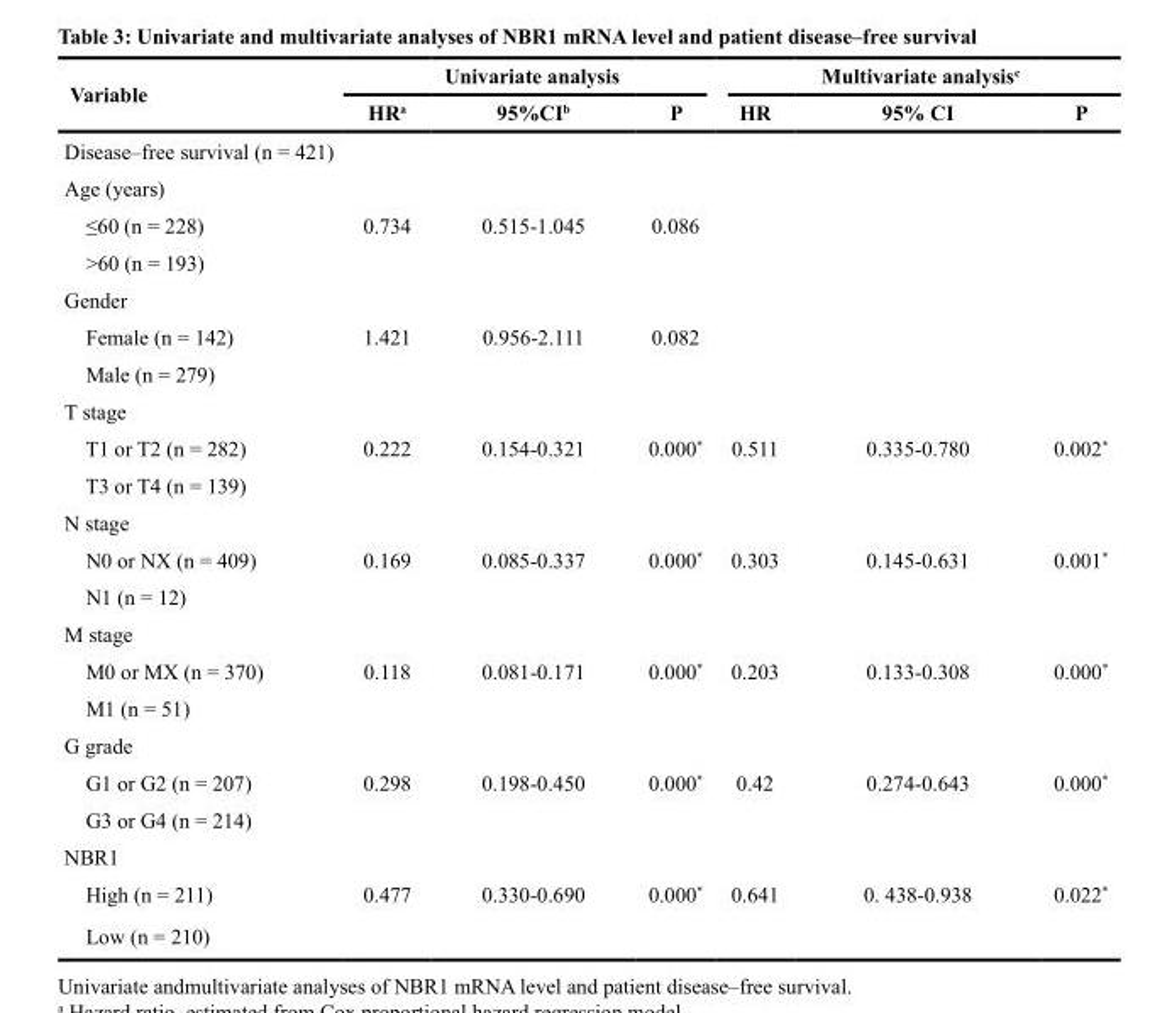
<table><thead><tr><td rowspan="2">Variable</td><td colspan="3">Univariate analysis</td><td colspan="3">Multivariate analysis<sup>c</sup></td></tr><tr><td>HR<sup>a</sup></td><td>95%CI<sup>b</sup></td><td>P</td><td>HR</td><td>95% CI</td><td>P</td></tr></thead><tbody><tr><td colspan="7">Disease–free survival (n = 421)</td></tr><tr><td colspan="7">Age (years)</td></tr><tr><td>≤60 (n = 228)</td><td>0.734</td><td>0.515-1.045</td><td>0.086</td><td></td><td></td><td></td></tr><tr><td colspan="7">&gt;60 (n = 193)</td></tr><tr><td colspan="7">Gender</td></tr><tr><td>Female (n = 142)</td><td>1.421</td><td>0.956-2.111</td><td>0.082</td><td></td><td></td><td></td></tr><tr><td colspan="7">Male (n = 279)</td></tr><tr><td colspan="7">T stage</td></tr><tr><td>T1 or T2 (n = 282)</td><td>0.222</td><td>0.154-0.321</td><td>0.000*</td><td>0.511</td><td>0.335-0.780</td><td>0.002*</td></tr><tr><td colspan="7">T3 or T4 (n = 139)</td></tr><tr><td colspan="7">N stage</td></tr><tr><td>N0 or NX (n = 409)</td><td>0.169</td><td>0.085-0.337</td><td>0.000*</td><td>0.303</td><td>0.145-0.631</td><td>0.001*</td></tr><tr><td colspan="7">N1 (n = 12)</td></tr><tr><td colspan="7">M stage</td></tr><tr><td>M0 or MX (n = 370)</td><td>0.118</td><td>0.081-0.171</td><td>0.000*</td><td>0.203</td><td>0.133-0.308</td><td>0.000*</td></tr><tr><td colspan="7">M1 (n = 51)</td></tr><tr><td colspan="7">G grade</td></tr><tr><td>G1 or G2 (n = 207)</td><td>0.298</td><td>0.198-0.450</td><td>0.000*</td><td>0.42</td><td>0.274-0.643</td><td>0.000*</td></tr><tr><td colspan="7">G3 or G4 (n = 214)</td></tr><tr><td colspan="7">NBR1</td></tr><tr><td>High (n = 211)</td><td>0.477</td><td>0.330-0.690</td><td>0.000*</td><td>0.641</td><td>0. 438-0.938</td><td>0.022*</td></tr><tr><td>Low (n = 210)</td><td></td><td></td><td></td><td></td><td></td><td></td></tr></tbody></table>